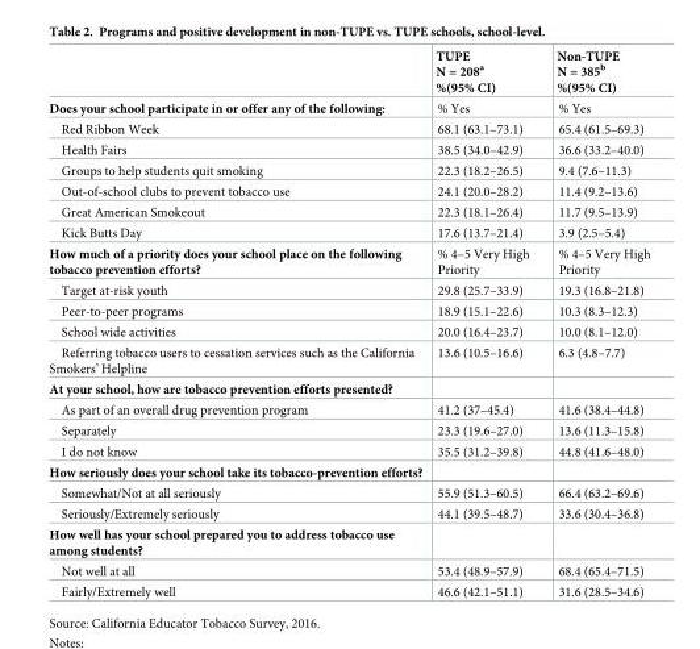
<table><thead><tr><td></td><td>TUPE N = 208<sup>a</sup> %(95% CI)</td><td>Non-TUPE N = 385<sup>b</sup> %(95% CI)</td></tr></thead><tbody><tr><td>Does your school participate in or offer any of the following:</td><td>% Yes</td><td>% Yes</td></tr><tr><td>Red Ribbon Week</td><td>68.1 (63.1–73.1)</td><td>65.4 (61.5–69.3)</td></tr><tr><td>Health Fairs</td><td>38.5 (34.0–42.9)</td><td>36.6 (33.2–40.0)</td></tr><tr><td>Groups to help students quit smoking</td><td>22.3 (18.2–26.5)</td><td>9.4 (7.6–11.3)</td></tr><tr><td>Out-of-school clubs to prevent tobacco use</td><td>24.1 (20.0–28.2)</td><td>11.4 (9.2–13.6)</td></tr><tr><td>Great American Smokeout</td><td>22.3 (18.1–26.4)</td><td>11.7 (9.5–13.9)</td></tr><tr><td>Kick Butts Day</td><td>17.6 (13.7–21.4)</td><td>3.9 (2.5–5.4)</td></tr><tr><td>How much of a priority does your school place on the following tobacco prevention efforts?</td><td>% 4–5 Very High Priority</td><td>% 4–5 Very High Priority</td></tr><tr><td>Target at-risk youth</td><td>29.8 (25.7–33.9)</td><td>19.3 (16.8–21.8)</td></tr><tr><td>Peer-to-peer programs</td><td>18.9 (15.1–22.6)</td><td>10.3 (8.3–12.3)</td></tr><tr><td>School wide activities</td><td>20.0 (16.4–23.7)</td><td>10.0 (8.1–12.0)</td></tr><tr><td>Referring tobacco users to cessation services such as the California Smokers’ Helpline</td><td>13.6 (10.5–16.6)</td><td>6.3 (4.8–7.7)</td></tr><tr><td colspan="3">At your school, how are tobacco prevention efforts presented?</td></tr><tr><td>As part of an overall drug prevention program</td><td>41.2 (37–45.4)</td><td>41.6 (38.4–44.8)</td></tr><tr><td>Separately</td><td>23.3 (19.6–27.0)</td><td>13.6 (11.3–15.8)</td></tr><tr><td>I do not know</td><td>35.5 (31.2–39.8)</td><td>44.8 (41.6–48.0)</td></tr><tr><td colspan="3">How seriously does your school take its tobacco-prevention efforts?</td></tr><tr><td>Somewhat/Not at all seriously</td><td>55.9 (51.3–60.5)</td><td>66.4 (63.2–69.6)</td></tr><tr><td>Seriously/Extremely seriously</td><td>44.1 (39.5–48.7)</td><td>33.6 (30.4–36.8)</td></tr><tr><td colspan="3">How well has your school prepared you to address tobacco use among students?</td></tr><tr><td>Not well at all</td><td>53.4 (48.9–57.9)</td><td>68.4 (65.4–71.5)</td></tr><tr><td>Fairly/Extremely well</td><td>46.6 (42.1–51.1)</td><td>31.6 (28.5–34.6)</td></tr></tbody></table>